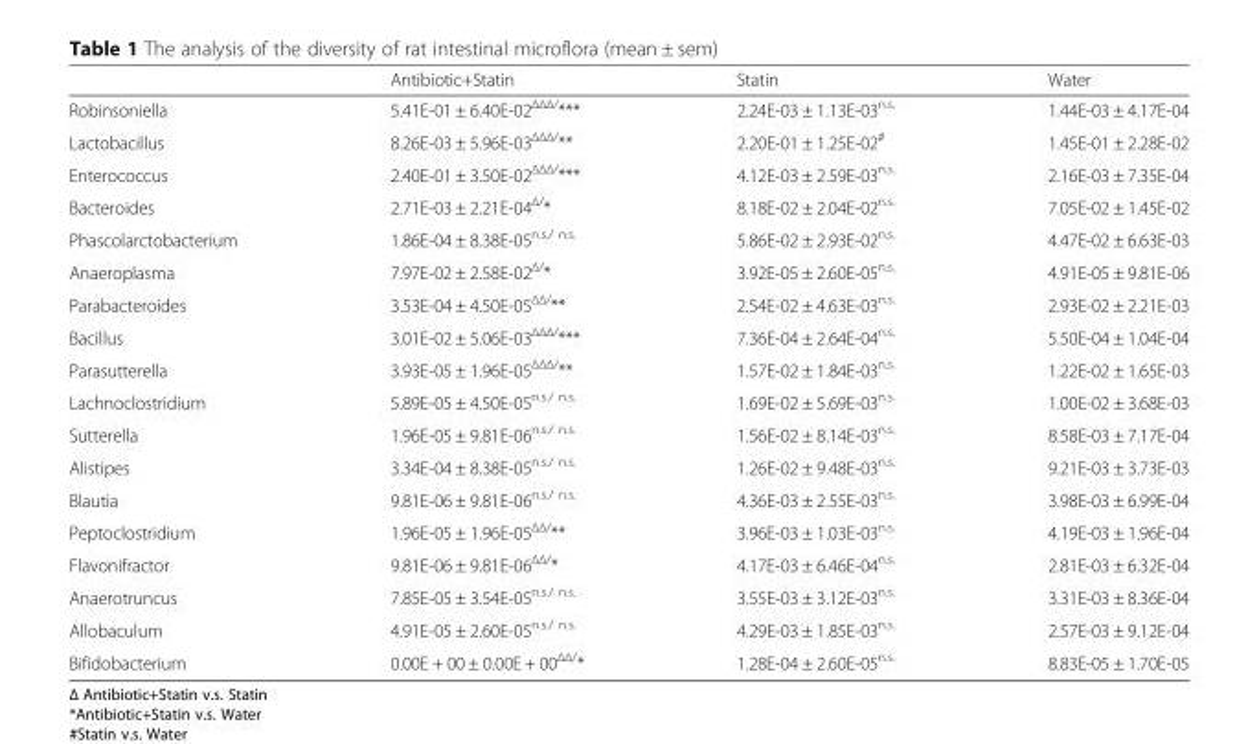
<table><thead><tr><td></td><td>Antibiotic+Statin</td><td>Statin</td><td>Water</td></tr></thead><tbody><tr><td>Robinsoniella</td><td>5.41E-01 ± 6.40E-02ΔΔΔ/***</td><td>2.24E-03 ± 1.13E-03<sup>n.s.</sup></td><td>1.44E-03 ± 4.17E-04</td></tr><tr><td>Lactobacillus</td><td>8.26E-03 ± 5.96E-03ΔΔΔ/**</td><td>2.20E-01 ± 1.25E-02<sup>#</sup></td><td>1.45E-01 ± 2.28E-02</td></tr><tr><td>Enterococcus</td><td>2.40E-01 ± 3.50E-02ΔΔΔ/***</td><td>4.12E-03 ± 2.59E-03<sup>n.s.</sup></td><td>2.16E-03 ± 7.35E-04</td></tr><tr><td>Bacteroides</td><td>2.71E-03 ± 2.21E-04Δ/*</td><td>8.18E-02 ± 2.04E-02<sup>n.s.</sup></td><td>7.05E-02 ± 1.45E-02</td></tr><tr><td>Phascolarctobacterium</td><td>1.86E-04 ± 8.38E-05<sup>n.s./ n.s.</sup></td><td>5.86E-02 ± 2.93E-02<sup>n.s.</sup></td><td>4.47E-02 ± 6.63E-03</td></tr><tr><td>Anaeroplasma</td><td>7.97E-02 ± 2.58E-02Δ/*</td><td>3.92E-05 ± 2.60E-05<sup>n.s.</sup></td><td>4.91E-05 ± 9.81E-06</td></tr><tr><td>Parabacteroides</td><td>3.53E-04 ± 4.50E-05ΔΔ/**</td><td>2.54E-02 ± 4.63E-03<sup>n.s.</sup></td><td>2.93E-02 ± 2.21E-03</td></tr><tr><td>Bacillus</td><td>3.01E-02 ± 5.06E-03ΔΔΔ/***</td><td>7.36E-04 ± 2.64E-04<sup>n.s.</sup></td><td>5.50E-04 ± 1.04E-04</td></tr><tr><td>Parasutterella</td><td>3.93E-05 ± 1.96E-05ΔΔΔ/**</td><td>1.57E-02 ± 1.84E-03<sup>n.s.</sup></td><td>1.22E-02 ± 1.65E-03</td></tr><tr><td>Lachnoclostridium</td><td>5.89E-05 ± 4.50E-05<sup>n.s./ n.s.</sup></td><td>1.69E-02 ± 5.69E-03<sup>n.s.</sup></td><td>1.00E-02 ± 3.68E-03</td></tr><tr><td>Sutterella</td><td>1.96E-05 ± 9.81E-06<sup>n.s./ n.s.</sup></td><td>1.56E-02 ± 8.14E-03<sup>n.s.</sup></td><td>8.58E-03 ± 7.17E-04</td></tr><tr><td>Alistipes</td><td>3.34E-04 ± 8.38E-05<sup>n.s./ n.s.</sup></td><td>1.26E-02 ± 9.48E-03<sup>n.s.</sup></td><td>9.21E-03 ± 3.73E-03</td></tr><tr><td>Blautia</td><td>9.81E-06 ± 9.81E-06<sup>n.s./ n.s.</sup></td><td>4.36E-03 ± 2.55E-03<sup>n.s.</sup></td><td>3.98E-03 ± 6.99E-04</td></tr><tr><td>Peptoclostridium</td><td>1.96E-05 ± 1.96E-05ΔΔ/**</td><td>3.96E-03 ± 1.03E-03<sup>n.s.</sup></td><td>4.19E-03 ± 1.96E-04</td></tr><tr><td>Flavonifractor</td><td>9.81E-06 ± 9.81E-06ΔΔ/*</td><td>4.17E-03 ± 6.46E-04<sup>n.s.</sup></td><td>2.81E-03 ± 6.32E-04</td></tr><tr><td>Anaerotruncus</td><td>7.85E-05 ± 3.54E-05<sup>n.s./ n.s.</sup></td><td>3.55E-03 ± 3.12E-03<sup>n.s.</sup></td><td>3.31E-03 ± 8.36E-04</td></tr><tr><td>Allobaculum</td><td>4.91E-05 ± 2.60E-05<sup>n.s./ n.s.</sup></td><td>4.29E-03 ± 1.85E-03<sup>n.s.</sup></td><td>2.57E-03 ± 9.12E-04</td></tr><tr><td>Bifidobacterium</td><td>0.00E + 00 ± 0.00E + 00ΔΔ/*</td><td>1.28E-04 ± 2.60E-05<sup>n.s.</sup></td><td>8.83E-05 ± 1.70E-05</td></tr></tbody></table>